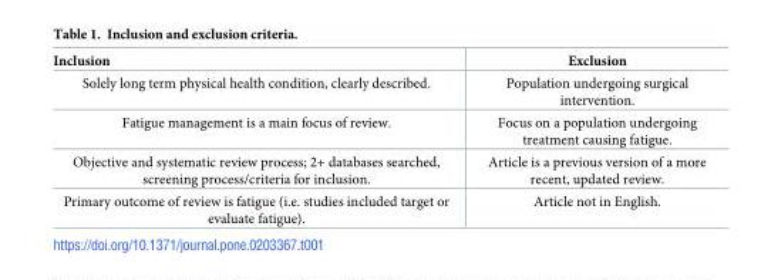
<table><thead><tr><td>Inclusion</td><td>Exclusion</td></tr></thead><tbody><tr><td>Solely long term physical health condition, clearly described.</td><td>Population undergoing surgical intervention.</td></tr><tr><td>Fatigue management is a main focus of review.</td><td>Focus on a population undergoing treatment causing fatigue.</td></tr><tr><td>Objective and systematic review process; 2+ databases searched, screening process/criteria for inclusion.</td><td>Article is a previous version of a more recent, updated review.</td></tr><tr><td>Primary outcome of review is fatigue (i.e. studies included target or evaluate fatigue).</td><td>Article not in English.</td></tr></tbody></table>